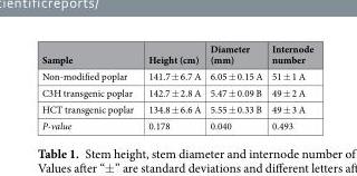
<table><thead><tr><td>Sample</td><td>Height (cm)</td><td>Diameter (mm)</td><td>Internode number</td></tr></thead><tbody><tr><td>Non-modified poplar</td><td>141.7 ± 6.7 A</td><td>6.05 ± 0.15 A</td><td>51 ± 1 A</td></tr><tr><td>C3H transgenic poplar</td><td>142.7 ± 2.8 A</td><td>5.47 ± 0.09 B</td><td>49 ± 2 A</td></tr><tr><td>HCT transgenic poplar</td><td>134.8 ± 6.6 A</td><td>5.55 ± 0.33 B</td><td>49 ± 3 A</td></tr><tr><td>P-value</td><td>0.178</td><td>0.040</td><td>0.493</td></tr></tbody></table>